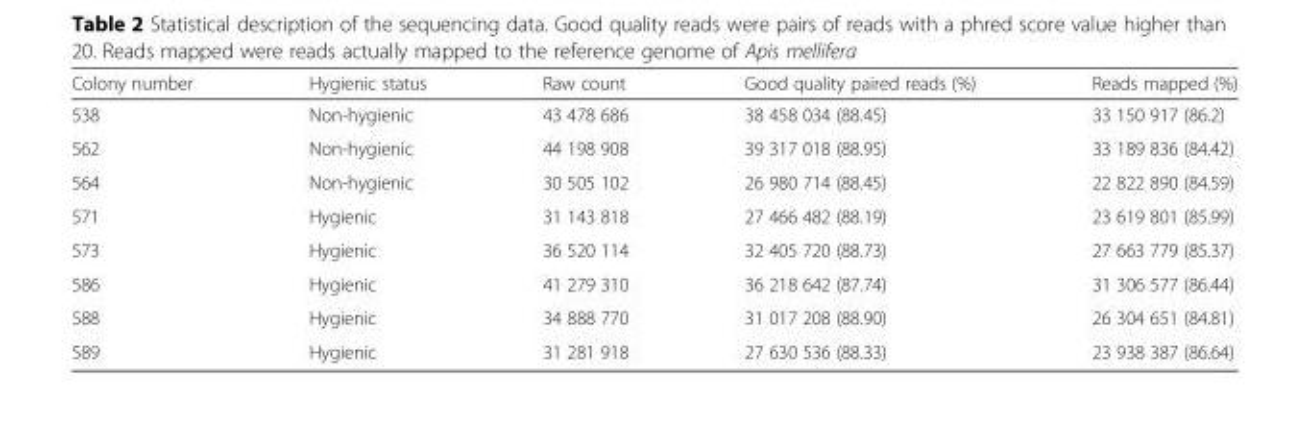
<table><thead><tr><td>Colony number</td><td>Hygienic status</td><td>Raw count</td><td>Good quality paired reads (%)</td><td>Reads mapped (%)</td></tr></thead><tbody><tr><td>538</td><td>Non-hygienic</td><td>43 478 686</td><td>38 458 034 (88.45)</td><td>33 150 917 (86.2)</td></tr><tr><td>562</td><td>Non-hygienic</td><td>44 198 908</td><td>39 317 018 (88.95)</td><td>33 189 836 (84.42)</td></tr><tr><td>564</td><td>Non-hygienic</td><td>30 505 102</td><td>26 980 714 (88.45)</td><td>22 822 890 (84.59)</td></tr><tr><td>571</td><td>Hygienic</td><td>31 143 818</td><td>27 466 482 (88.19)</td><td>23 619 801 (85.99)</td></tr><tr><td>573</td><td>Hygienic</td><td>36 520 114</td><td>32 405 720 (88.73)</td><td>27 663 779 (85.37)</td></tr><tr><td>586</td><td>Hygienic</td><td>41 279 310</td><td>36 218 642 (87.74)</td><td>31 306 577 (86.44)</td></tr><tr><td>588</td><td>Hygienic</td><td>34 888 770</td><td>31 017 208 (88.90)</td><td>26 304 651 (84.81)</td></tr><tr><td>589</td><td>Hygienic</td><td>31 281 918</td><td>27 630 536 (88.33)</td><td>23 938 387 (86.64)</td></tr></tbody></table>